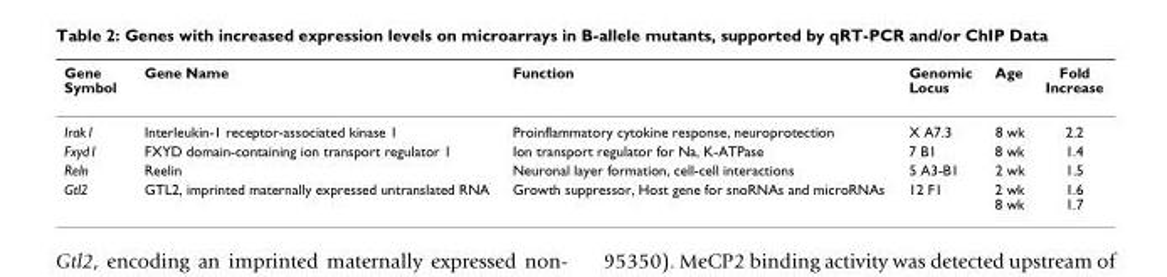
<table><thead><tr><td>Gene Symbol</td><td>Gene Name</td><td>Function</td><td>Genomic Locus</td><td>Age</td><td>Fold Increase</td></tr></thead><tbody><tr><td>Irak1</td><td>Interleukin-1 receptor-associated kinase 1</td><td>Proinflammatory cytokine response, neuroprotection</td><td>X A7.3</td><td>8 wk</td><td>2.2</td></tr><tr><td>Fxyd1</td><td>FXYD domain-containing ion transport regulator 1</td><td>Ion transport regulator for Na, K-ATPase</td><td>7 B1</td><td>8 wk</td><td>1.4</td></tr><tr><td>Reln</td><td>Reelin</td><td>Neuronal layer formation, cell-cell interactions</td><td>5 A3-B1</td><td>2 wk</td><td>1.5</td></tr><tr><td>Gtl2</td><td>GTL2, imprinted maternally expressed untranslated RNA</td><td>Growth suppressor, Host gene for snoRNAs and microRNAs</td><td>12 F1</td><td>2 wk 8 wk</td><td>1.6 1.7</td></tr></tbody></table>